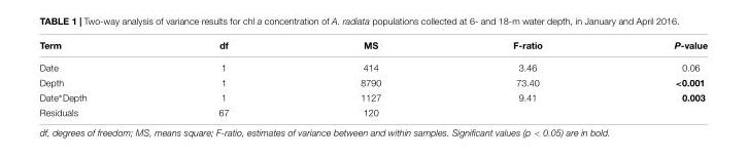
<table><thead><tr><td>Term</td><td>df</td><td>MS</td><td>F-ratio</td><td>P-value</td></tr></thead><tbody><tr><td>Date</td><td>1</td><td>414</td><td>3.46</td><td>0.06</td></tr><tr><td>Depth</td><td>1</td><td>8790</td><td>73.40</td><td>&lt;0.001</td></tr><tr><td>Date∗Depth</td><td>1</td><td>1127</td><td>9.41</td><td>0.003</td></tr><tr><td>Residuals</td><td>67</td><td>120</td><td></td><td></td></tr></tbody></table>